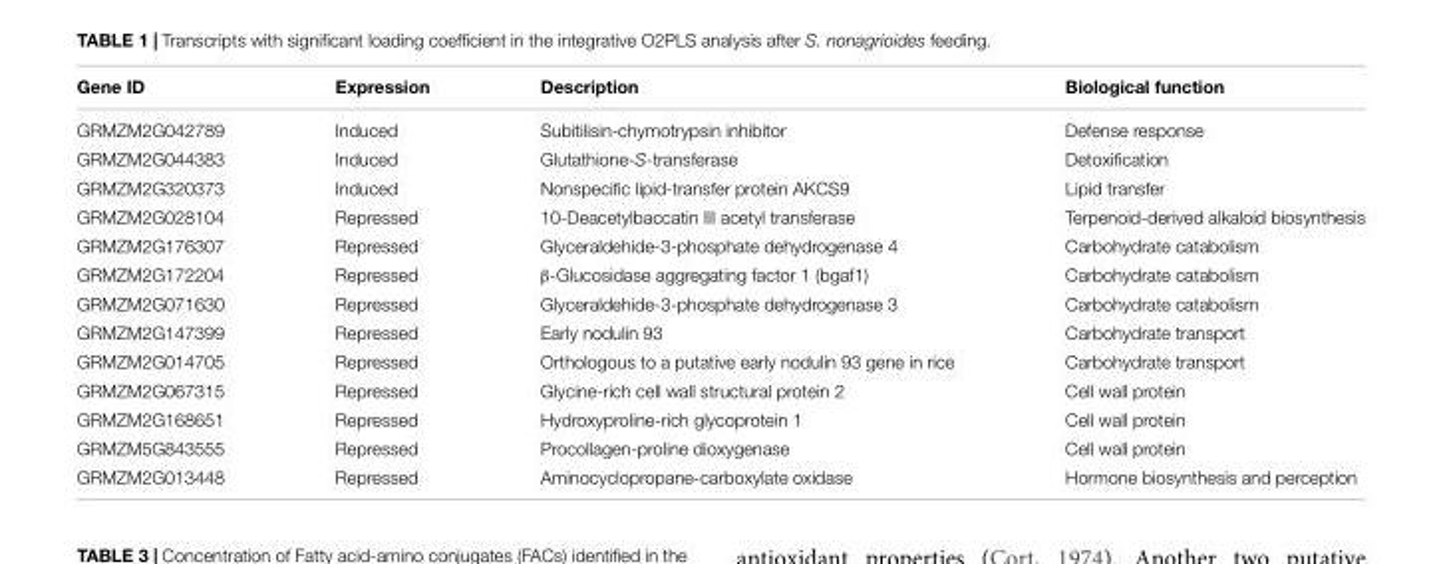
<table><thead><tr><td>Gene ID</td><td>Expression</td><td>Description</td><td>Biological function</td></tr></thead><tbody><tr><td>GRMZM2G042789</td><td>Induced</td><td>Subitilisin-chymotrypsin inhibitor</td><td>Defense response</td></tr><tr><td>GRMZM2G044383</td><td>Induced</td><td>Glutathione-S-transferase</td><td>Detoxification</td></tr><tr><td>GRMZM2G320373</td><td>Induced</td><td>Nonspecific lipid-transfer protein AKCS9</td><td>Lipid transfer</td></tr><tr><td>GRMZM2G028104</td><td>Repressed</td><td>10-Deacetylbaccatin III acetyl transferase</td><td>Terpenoid-derived alkaloid biosynthesis</td></tr><tr><td>GRMZM2G176307</td><td>Repressed</td><td>Glyceraldehide-3-phosphate dehydrogenase 4</td><td>Carbohydrate catabolism</td></tr><tr><td>GRMZM2G172204</td><td>Repressed</td><td>β-Glucosidase aggregating factor 1 (bgaf1)</td><td>Carbohydrate catabolism</td></tr><tr><td>GRMZM2G071630</td><td>Repressed</td><td>Glyceraldehide-3-phosphate dehydrogenase 3</td><td>Carbohydrate catabolism</td></tr><tr><td>GRMZM2G147399</td><td>Repressed</td><td>Early nodulin 93</td><td>Carbohydrate transport</td></tr><tr><td>GRMZM2G014705</td><td>Repressed</td><td>Orthologous to a putative early nodulin 93 gene in rice</td><td>Carbohydrate transport</td></tr><tr><td>GRMZM2G067315</td><td>Repressed</td><td>Glycine-rich cell wall structural protein 2</td><td>Cell wall protein</td></tr><tr><td>GRMZM2G168651</td><td>Repressed</td><td>Hydroxyproline-rich glycoprotein 1</td><td>Cell wall protein</td></tr><tr><td>GRMZM5G843555</td><td>Repressed</td><td>Procollagen-proline dioxygenase</td><td>Cell wall protein</td></tr><tr><td>GRMZM2G013448</td><td>Repressed</td><td>Aminocyclopropane-carboxylate oxidase</td><td>Hormone biosynthesis and perception</td></tr></tbody></table>